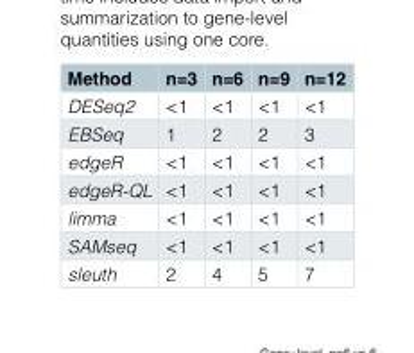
<table><thead><tr><td>Method</td><td>n=3</td><td>n=6</td><td>n=9</td><td>n=12</td></tr></thead><tbody><tr><td>DESeq2</td><td>&lt;1</td><td>&lt;1</td><td>&lt;1</td><td>&lt;1</td></tr><tr><td>EBSeq</td><td>1</td><td>2</td><td>2</td><td>3</td></tr><tr><td>edgeR</td><td>&lt;1</td><td>&lt;1</td><td>&lt;1</td><td>&lt;1</td></tr><tr><td>edgeR-QL</td><td>&lt;1</td><td>&lt;1</td><td>&lt;1</td><td>&lt;1</td></tr><tr><td>limma</td><td>&lt;1</td><td>&lt;1</td><td>&lt;1</td><td>&lt;1</td></tr><tr><td>SAMseq</td><td>&lt;1</td><td>&lt;1</td><td>&lt;1</td><td>&lt;1</td></tr><tr><td>sleuth</td><td>2</td><td>4</td><td>5</td><td>7</td></tr></tbody></table>